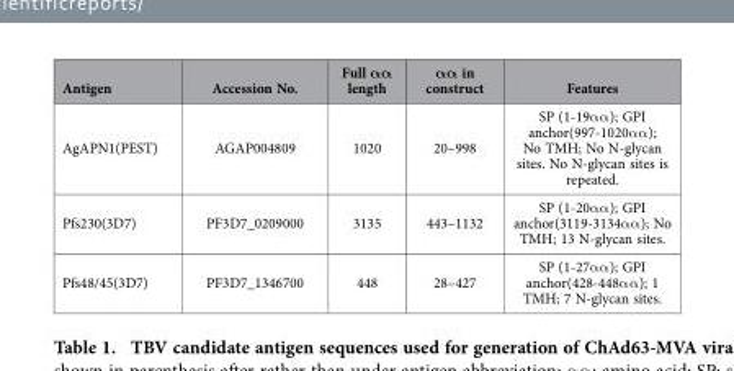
<table><thead><tr><td>Antigen</td><td>Accession No.</td><td>Full αα length</td><td>αα in construct</td><td>Features</td></tr></thead><tbody><tr><td>AgAPN1(PEST)</td><td>AGAP004809</td><td>1020</td><td>20–998</td><td>SP (1-19α α ); GPI anchor(997-1020α α ); No TMH; No N-glycan sites. No N-glycan sites is repeated.</td></tr><tr><td>Pfs230(3D7)</td><td>PF3D7_0209000</td><td>3135</td><td>443–1132</td><td>SP (1-20α α ); GPI anchor(3119-3134α α ); No TMH; 13 N-glycan sites.</td></tr><tr><td>Pfs48/45(3D7)</td><td>PF3D7_1346700</td><td>448</td><td>28–427</td><td>SP (1-27α α ); GPI anchor(428-448α α ); 1 TMH; 7 N-glycan sites.</td></tr></tbody></table>